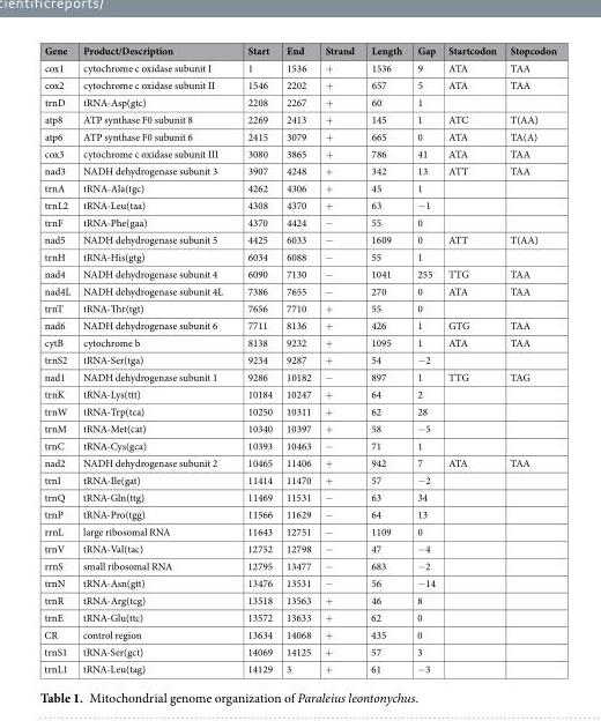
<table><thead><tr><td>Gene</td><td>Product/Description</td><td>Start</td><td>End</td><td>Strand</td><td>Length</td><td>Gap</td><td>Startcodon</td><td>Stopcodon</td></tr></thead><tbody><tr><td>cox1</td><td>cytochrome c oxidase subunit I</td><td>1</td><td>1536</td><td>+</td><td>1536</td><td>9</td><td>ATA</td><td>TAA</td></tr><tr><td>cox2</td><td>cytochrome c oxidase subunit II</td><td>1546</td><td>2202</td><td>+</td><td>657</td><td>5</td><td>ATA</td><td>TAA</td></tr><tr><td>trnD</td><td>tRNA-Asp(gtc)</td><td>2208</td><td>2267</td><td>+</td><td>60</td><td>1</td><td></td><td></td></tr><tr><td>atp8</td><td>ATP synthase F0 subunit 8</td><td>2269</td><td>2413</td><td>+</td><td>145</td><td>1</td><td>ATC</td><td>T(AA)</td></tr><tr><td>atp6</td><td>ATP synthase F0 subunit 6</td><td>2415</td><td>3079</td><td>+</td><td>665</td><td>0</td><td>ATA</td><td>TA(A)</td></tr><tr><td>cox3</td><td>cytochrome c oxidase subunit III</td><td>3080</td><td>3865</td><td>+</td><td>786</td><td>41</td><td>ATA</td><td>TAA</td></tr><tr><td>nad3</td><td>NADH dehydrogenase subunit 3</td><td>3907</td><td>4248</td><td>+</td><td>342</td><td>13</td><td>ATT</td><td>TAA</td></tr><tr><td>trnA</td><td>tRNA-Ala(tgc)</td><td>4262</td><td>4306</td><td>+</td><td>45</td><td>1</td><td></td><td></td></tr><tr><td>trnL2</td><td>tRNA-Leu(taa)</td><td>4308</td><td>4370</td><td>+</td><td>63</td><td>−1</td><td></td><td></td></tr><tr><td>trnF</td><td>tRNA-Phe(gaa)</td><td>4370</td><td>4424</td><td>−</td><td>55</td><td>0</td><td></td><td></td></tr><tr><td>nad5</td><td>NADH dehydrogenase subunit 5</td><td>4425</td><td>6033</td><td>−</td><td>1609</td><td>0</td><td>ATT</td><td>T(AA)</td></tr><tr><td>trnH</td><td>tRNA-His(gtg)</td><td>6034</td><td>6088</td><td>−</td><td>55</td><td>1</td><td></td><td></td></tr><tr><td>nad4</td><td>NADH dehydrogenase subunit 4</td><td>6090</td><td>7130</td><td>−</td><td>1041</td><td>255</td><td>TTG</td><td>TAA</td></tr><tr><td>nad4L</td><td>NADH dehydrogenase subunit 4L</td><td>7386</td><td>7655</td><td>−</td><td>270</td><td>0</td><td>ATA</td><td>TAA</td></tr><tr><td>trnT</td><td>tRNA-Thr(tgt)</td><td>7656</td><td>7710</td><td>+</td><td>55</td><td>0</td><td></td><td></td></tr><tr><td>nad6</td><td>NADH dehydrogenase subunit 6</td><td>7711</td><td>8136</td><td>+</td><td>426</td><td>1</td><td>GTG</td><td>TAA</td></tr><tr><td>cytB</td><td>cytochrome b</td><td>8138</td><td>9232</td><td>+</td><td>1095</td><td>1</td><td>ATA</td><td>TAA</td></tr><tr><td>trnS2</td><td>tRNA-Ser(tga)</td><td>9234</td><td>9287</td><td>+</td><td>54</td><td>−2</td><td></td><td></td></tr><tr><td>nad1</td><td>NADH dehydrogenase subunit 1</td><td>9286</td><td>10182</td><td>−</td><td>897</td><td>1</td><td>TTG</td><td>TAG</td></tr><tr><td>trnK</td><td>tRNA-Lys(ttt)</td><td>10184</td><td>10247</td><td>+</td><td>64</td><td>2</td><td></td><td></td></tr><tr><td>trnW</td><td>tRNA-Trp(tca)</td><td>10250</td><td>10311</td><td>+</td><td>62</td><td>28</td><td></td><td></td></tr><tr><td>trnM</td><td>tRNA-Met(cat)</td><td>10340</td><td>10397</td><td>+</td><td>58</td><td>−5</td><td></td><td></td></tr><tr><td>trnC</td><td>tRNA-Cys(gca)</td><td>10393</td><td>10463</td><td>−</td><td>71</td><td>1</td><td></td><td></td></tr><tr><td>nad2</td><td>NADH dehydrogenase subunit 2</td><td>10465</td><td>11406</td><td>+</td><td>942</td><td>7</td><td>ATA</td><td>TAA</td></tr><tr><td>trnI</td><td>tRNA-Ile(gat)</td><td>11414</td><td>11470</td><td>+</td><td>57</td><td>−2</td><td></td><td></td></tr><tr><td>trnQ</td><td>tRNA-Gln(ttg)</td><td>11469</td><td>11531</td><td>−</td><td>63</td><td>34</td><td></td><td></td></tr><tr><td>trnP</td><td>tRNA-Pro(tgg)</td><td>11566</td><td>11629</td><td>−</td><td>64</td><td>13</td><td></td><td></td></tr><tr><td>rrnL</td><td>large ribosomal RNA</td><td>11643</td><td>12751</td><td>−</td><td>1109</td><td>0</td><td></td><td></td></tr><tr><td>trnV</td><td>tRNA-Val(tac)</td><td>12752</td><td>12798</td><td>−</td><td>47</td><td>−4</td><td></td><td></td></tr><tr><td>rrnS</td><td>small ribosomal RNA</td><td>12795</td><td>13477</td><td>−</td><td>683</td><td>−2</td><td></td><td></td></tr><tr><td>trnN</td><td>tRNA-Asn(gtt)</td><td>13476</td><td>13531</td><td>−</td><td>56</td><td>−14</td><td></td><td></td></tr><tr><td>trnR</td><td>tRNA-Arg(tcg)</td><td>13518</td><td>13563</td><td>+</td><td>46</td><td>8</td><td></td><td></td></tr><tr><td>trnE</td><td>tRNA-Glu(ttc)</td><td>13572</td><td>13633</td><td>+</td><td>62</td><td>0</td><td></td><td></td></tr><tr><td>CR</td><td>control region</td><td>13634</td><td>14068</td><td>+</td><td>435</td><td>0</td><td></td><td></td></tr><tr><td>trnS1</td><td>tRNA-Ser(gct)</td><td>14069</td><td>14125</td><td>+</td><td>57</td><td>3</td><td></td><td></td></tr><tr><td>trnL1</td><td>tRNA-Leu(tag)</td><td>14129</td><td>3</td><td>+</td><td>61</td><td>−3</td><td></td><td></td></tr></tbody></table>